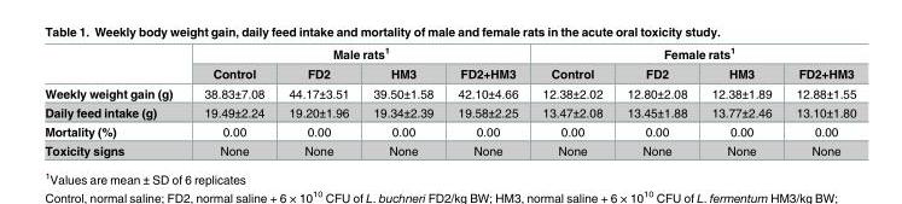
<table><thead><tr><td rowspan="2"></td><td colspan="4">Male rats<sup>1</sup></td><td colspan="4">Female rats<sup>1</sup></td></tr><tr><td>Control</td><td>FD2</td><td>HM3</td><td>FD2+HM3</td><td>Control</td><td>FD2</td><td>HM3</td><td>FD2+HM3</td></tr></thead><tbody><tr><td>Weekly weight gain (g)</td><td>38.83±7.08</td><td>44.17±3.51</td><td>39.50±1.58</td><td>42.10±4.66</td><td>12.38±2.02</td><td>12.80±2.08</td><td>12.38±1.89</td><td>12.88±1.55</td></tr><tr><td>Daily feed intake (g)</td><td>19.49±2.24</td><td>19.20±1.96</td><td>19.34±2.39</td><td>19.58±2.25</td><td>13.47±2.08</td><td>13.45±1.88</td><td>13.77±2.46</td><td>13.10±1.80</td></tr><tr><td>Mortality (%)</td><td>0.00</td><td>0.00</td><td>0.00</td><td>0.00</td><td>0.00</td><td>0.00</td><td>0.00</td><td>0.00</td></tr><tr><td>Toxicity signs</td><td>None</td><td>None</td><td>None</td><td>None</td><td>None</td><td>None</td><td>None</td><td>None</td></tr></tbody></table>